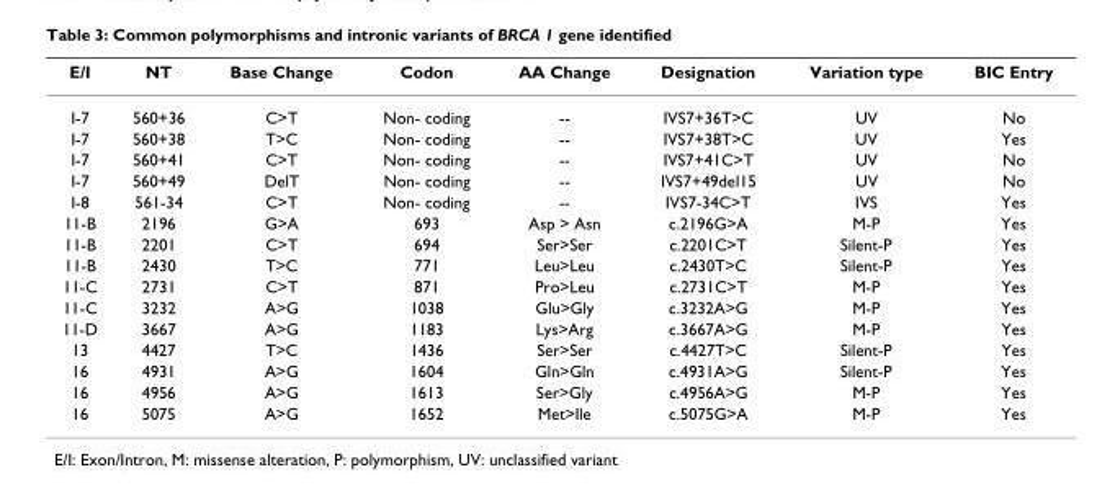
<table><thead><tr><td>E/I</td><td>NT</td><td>Base Change</td><td>Codon</td><td>AA Change</td><td>Designation</td><td>Variation type</td><td>BIC Entry</td></tr></thead><tbody><tr><td>I-7</td><td>560+36</td><td>C&gt;T</td><td>Non- coding</td><td>--</td><td>IVS7+36T&gt;C</td><td>UV</td><td>No</td></tr><tr><td>I-7</td><td>560+38</td><td>T&gt;C</td><td>Non- coding</td><td>--</td><td>IVS7+38T&gt;C</td><td>UV</td><td>Yes</td></tr><tr><td>I-7</td><td>560+41</td><td>C&gt;T</td><td>Non- coding</td><td>--</td><td>IVS7+41C&gt;T</td><td>UV</td><td>No</td></tr><tr><td>I-7</td><td>560+49</td><td>DelT</td><td>Non- coding</td><td>--</td><td>IVS7+49del15</td><td>UV</td><td>No</td></tr><tr><td>I-8</td><td>561-34</td><td>C&gt;T</td><td>Non- coding</td><td>--</td><td>IVS7-34C&gt;T</td><td>IVS</td><td>Yes</td></tr><tr><td>11-B</td><td>2196</td><td>G&gt;A</td><td>693</td><td>Asp &gt; Asn</td><td>c.2196G&gt;A</td><td>M-P</td><td>Yes</td></tr><tr><td>11-B</td><td>2201</td><td>C&gt;T</td><td>694</td><td>Ser&gt;Ser</td><td>c.2201C&gt;T</td><td>Silent-P</td><td>Yes</td></tr><tr><td>11-B</td><td>2430</td><td>T&gt;C</td><td>771</td><td>Leu&gt;Leu</td><td>c.2430T&gt;C</td><td>Silent-P</td><td>Yes</td></tr><tr><td>11-C</td><td>2731</td><td>C&gt;T</td><td>871</td><td>Pro&gt;Leu</td><td>c.2731C&gt;T</td><td>M-P</td><td>Yes</td></tr><tr><td>11-C</td><td>3232</td><td>A&gt;G</td><td>1038</td><td>Glu&gt;Gly</td><td>c.3232A&gt;G</td><td>M-P</td><td>Yes</td></tr><tr><td>11-D</td><td>3667</td><td>A&gt;G</td><td>1183</td><td>Lys&gt;Arg</td><td>c.3667A&gt;G</td><td>M-P</td><td>Yes</td></tr><tr><td>13</td><td>4427</td><td>T&gt;C</td><td>1436</td><td>Ser&gt;Ser</td><td>c.4427T&gt;C</td><td>Silent-P</td><td>Yes</td></tr><tr><td>16</td><td>4931</td><td>A&gt;G</td><td>1604</td><td>Gln&gt;Gln</td><td>c.4931A&gt;G</td><td>Silent-P</td><td>Yes</td></tr><tr><td>16</td><td>4956</td><td>A&gt;G</td><td>1613</td><td>Ser&gt;Gly</td><td>c.4956A&gt;G</td><td>M-P</td><td>Yes</td></tr><tr><td>16</td><td>5075</td><td>A&gt;G</td><td>1652</td><td>Met&gt;Ile</td><td>c.5075G&gt;A</td><td>M-P</td><td>Yes</td></tr></tbody></table>